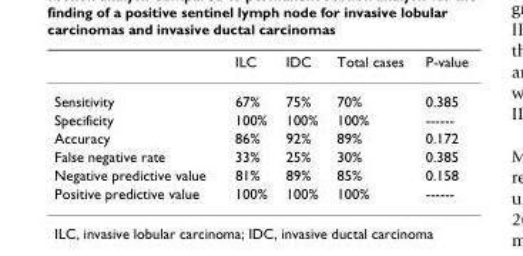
<table><thead><tr><td></td><td>ILC</td><td>IDC</td><td>Total cases</td><td>P-value</td></tr></thead><tbody><tr><td>Sensitivity</td><td>67%</td><td>75%</td><td>70%</td><td>0.385</td></tr><tr><td>Specificity</td><td>100%</td><td>100%</td><td>100%</td><td>------</td></tr><tr><td>Accuracy</td><td>86%</td><td>92%</td><td>89%</td><td>0.172</td></tr><tr><td>False negative rate</td><td>33%</td><td>25%</td><td>30%</td><td>0.385</td></tr><tr><td>Negative predictive value</td><td>81%</td><td>89%</td><td>85%</td><td>0.158</td></tr><tr><td>Positive predictive value</td><td>100%</td><td>100%</td><td>100%</td><td>------</td></tr></tbody></table>